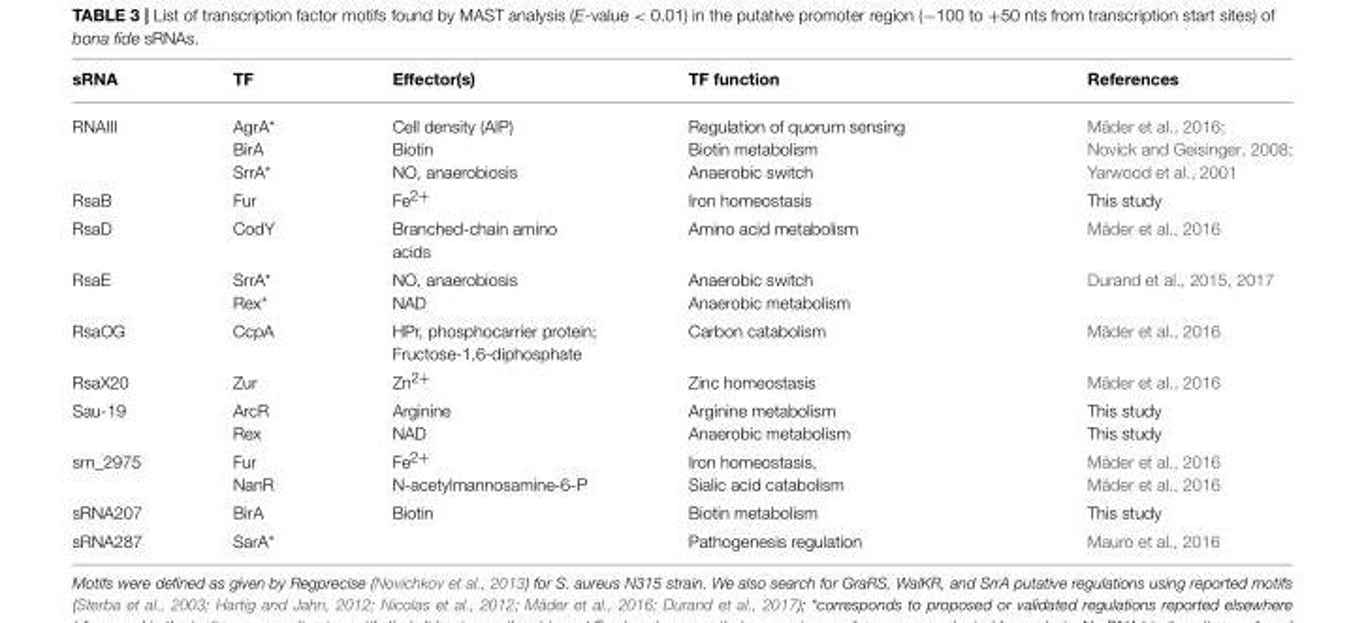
<table><thead><tr><td>sRNA</td><td>TF</td><td>Effector(s)</td><td>TF function</td><td>References</td></tr></thead><tbody><tr><td>RNAIII</td><td>AgrA* BirA SrrA*</td><td>Cell density (AIP) Biotin NO, anaerobiosis</td><td>Regulation of quorum sensing Biotin metabolism Anaerobic switch</td><td>Mäder et al., 2016; Novick and Geisinger, 2008; Yarwood et al., 2001</td></tr><tr><td>RsaB</td><td>Fur</td><td>Fe<sup>2+</sup></td><td>Iron homeostasis</td><td>This study</td></tr><tr><td>RsaD</td><td>CodY</td><td>Branched-chain amino acids</td><td>Amino acid metabolism</td><td>Mäder et al., 2016</td></tr><tr><td>RsaE</td><td>SrrA* Rex*</td><td>NO, anaerobiosis NAD</td><td>Anaerobic switch Anaerobic metabolism</td><td>Durand et al., 2015, 2017</td></tr><tr><td>RsaOG</td><td>CcpA</td><td>HPr, phosphocarrier protein; Fructose-1,6-diphosphate</td><td>Carbon catabolism</td><td>Mäder et al., 2016</td></tr><tr><td>RsaX20</td><td>Zur</td><td>Zn<sup>2+</sup></td><td>Zinc homeostasis</td><td>Mäder et al., 2016</td></tr><tr><td>Sau-19</td><td>ArcR Rex</td><td>Arginine NAD</td><td>Arginine metabolism Anaerobic metabolism</td><td>This study This study</td></tr><tr><td>srn_2975</td><td>Fur NanR</td><td>Fe<sup>2+</sup> N-acetylmannosamine-6-P</td><td>Iron homeostasis, Sialic acid catabolism</td><td>Mäder et al., 2016 Mäder et al., 2016</td></tr><tr><td>sRNA207</td><td>BirA</td><td>Biotin</td><td>Biotin metabolism</td><td>This study</td></tr><tr><td>sRNA287</td><td>SarA*</td><td></td><td>Pathogenesis regulation</td><td>Mauro et al., 2016</td></tr></tbody></table>